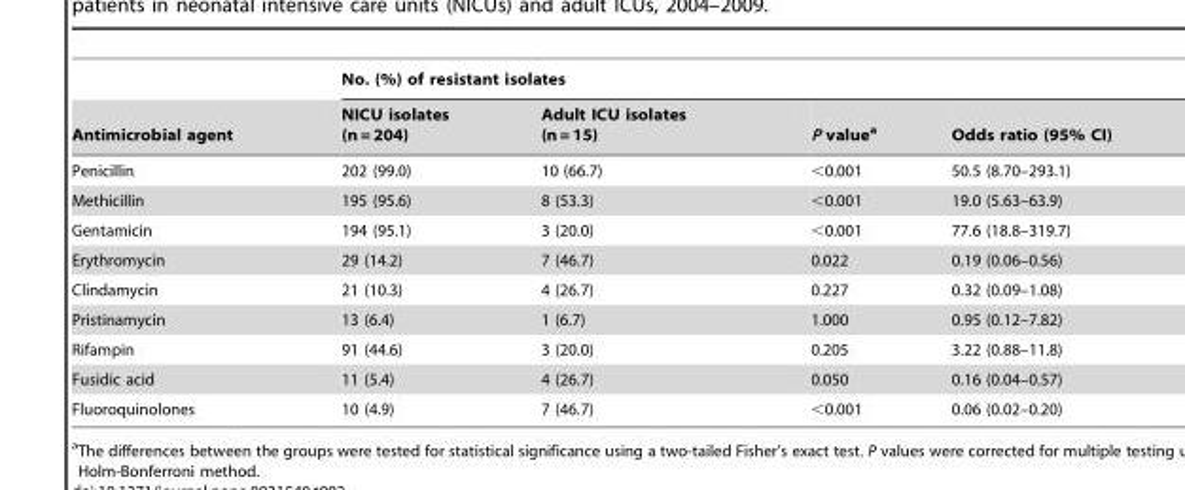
<table><thead><tr><td rowspan="2">Antimicrobial agent</td><td colspan="4">No. (%) of resistant isolates</td></tr><tr><td>NICU isolates (n = 204)</td><td>Adult ICU isolates (n = 15)</td><td>P value<sup>a</sup></td><td>Odds ratio (95% CI)</td></tr></thead><tbody><tr><td>Penicillin</td><td>202 (99.0)</td><td>10 (66.7)</td><td>&lt;0.001</td><td>50.5 (8.70–293.1)</td></tr><tr><td>Methicillin</td><td>195 (95.6)</td><td>8 (53.3)</td><td>&lt;0.001</td><td>19.0 (5.63–63.9)</td></tr><tr><td>Gentamicin</td><td>194 (95.1)</td><td>3 (20.0)</td><td>&lt;0.001</td><td>77.6 (18.8–319.7)</td></tr><tr><td>Erythromycin</td><td>29 (14.2)</td><td>7 (46.7)</td><td>0.022</td><td>0.19 (0.06–0.56)</td></tr><tr><td>Clindamycin</td><td>21 (10.3)</td><td>4 (26.7)</td><td>0.227</td><td>0.32 (0.09–1.08)</td></tr><tr><td>Pristinamycin</td><td>13 (6.4)</td><td>1 (6.7)</td><td>1.000</td><td>0.95 (0.12–7.82)</td></tr><tr><td>Rifampin</td><td>91 (44.6)</td><td>3 (20.0)</td><td>0.205</td><td>3.22 (0.88–11.8)</td></tr><tr><td>Fusidic acid</td><td>11 (5.4)</td><td>4 (26.7)</td><td>0.050</td><td>0.16 (0.04–0.57)</td></tr><tr><td>Fluoroquinolones</td><td>10 (4.9)</td><td>7 (46.7)</td><td>&lt;0.001</td><td>0.06 (0.02–0.20)</td></tr></tbody></table>